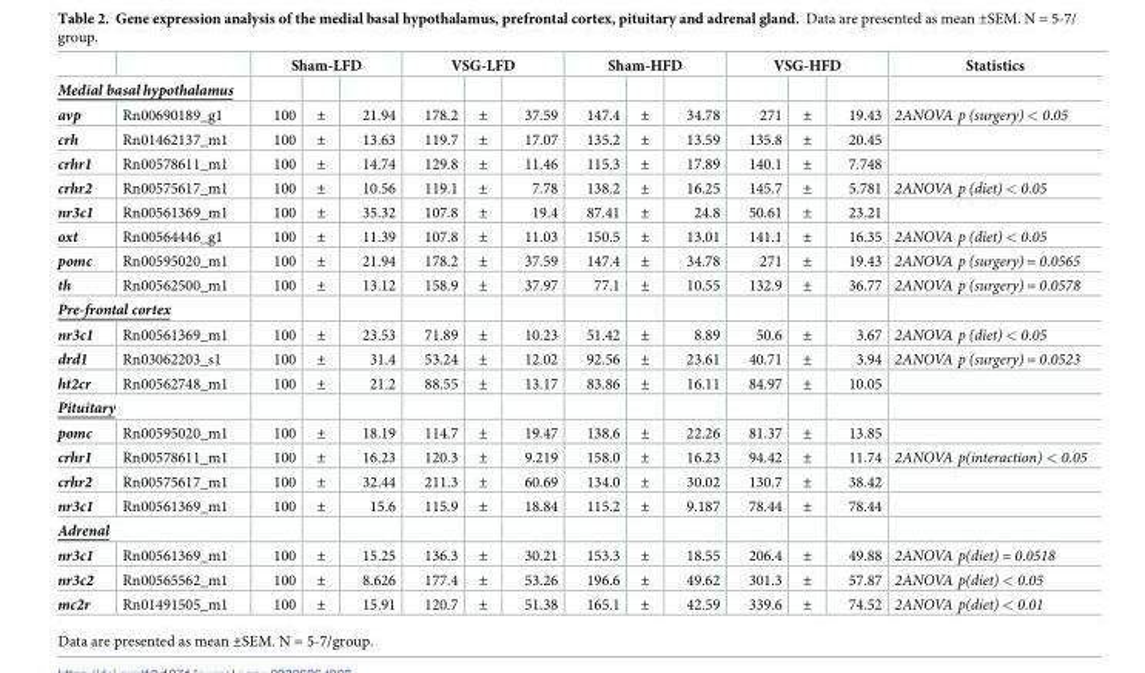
<table><thead><tr><td></td><td></td><td colspan="3">Sham-LFD</td><td colspan="3">VSG-LFD</td><td colspan="3">Sham-HFD</td><td colspan="3">VSG-HFD</td><td rowspan="2">Statistics</td></tr><tr><td colspan="2">Medial basal hypothalamus</td><td></td><td></td><td></td><td></td><td></td><td></td><td></td><td></td><td></td><td></td><td></td><td></td></tr></thead><tbody><tr><td>avp</td><td>Rn00690189_g1</td><td>100</td><td>±</td><td>21.94</td><td>178.2</td><td>±</td><td>37.59</td><td>147.4</td><td>±</td><td>34.78</td><td>271</td><td>±</td><td>19.43</td><td>2ANOVA p (surgery) &lt; 0.05</td></tr><tr><td>crh</td><td>Rn01462137_m1</td><td>100</td><td>±</td><td>13.63</td><td>119.7</td><td>±</td><td>17.07</td><td>135.2</td><td>±</td><td>13.59</td><td>135.8</td><td>±</td><td>20.45</td><td></td></tr><tr><td>crhr1</td><td>Rn00578611_m1</td><td>100</td><td>±</td><td>14.74</td><td>129.8</td><td>±</td><td>11.46</td><td>115.3</td><td>±</td><td>17.89</td><td>140.1</td><td>±</td><td>7.748</td><td></td></tr><tr><td>crhr2</td><td>Rn00575617_m1</td><td>100</td><td>±</td><td>10.56</td><td>119.1</td><td>±</td><td>7.78</td><td>138.2</td><td>±</td><td>16.25</td><td>145.7</td><td>±</td><td>5.781</td><td>2ANOVA p (diet) &lt; 0.05</td></tr><tr><td>nr3c1</td><td>Rn00561369_m1</td><td>100</td><td>±</td><td>35.32</td><td>107.8</td><td>±</td><td>19.4</td><td>87.41</td><td>±</td><td>24.8</td><td>50.61</td><td>±</td><td>23.21</td><td></td></tr><tr><td>oxt</td><td>Rn00564446_g1</td><td>100</td><td>±</td><td>11.39</td><td>107.8</td><td>±</td><td>11.03</td><td>150.5</td><td>±</td><td>13.01</td><td>141.1</td><td>±</td><td>16.35</td><td>2ANOVA p (diet) &lt; 0.05</td></tr><tr><td>pomc</td><td>Rn00595020_m1</td><td>100</td><td>±</td><td>21.94</td><td>178.2</td><td>±</td><td>37.59</td><td>147.4</td><td>±</td><td>34.78</td><td>271</td><td>±</td><td>19.43</td><td>2ANOVA p (surgery) = 0.0565</td></tr><tr><td>th</td><td>Rn00562500_m1</td><td>100</td><td>±</td><td>13.12</td><td>158.9</td><td>±</td><td>37.97</td><td>77.1</td><td>±</td><td>10.55</td><td>132.9</td><td>±</td><td>36.77</td><td>2ANOVA p (surgery) = 0.0578</td></tr><tr><td colspan="15">Pre-frontal cortex</td></tr><tr><td>nr3c1</td><td>Rn00561369_m1</td><td>100</td><td>±</td><td>23.53</td><td>71.89</td><td>±</td><td>10.23</td><td>51.42</td><td>±</td><td>8.89</td><td>50.6</td><td>±</td><td>3.67</td><td>2ANOVA p (diet) &lt; 0.05</td></tr><tr><td>drd1</td><td>Rn03062203_s1</td><td>100</td><td>±</td><td>31.4</td><td>53.24</td><td>±</td><td>12.02</td><td>92.56</td><td>±</td><td>23.61</td><td>40.71</td><td>±</td><td>3.94</td><td>2ANOVA p (surgery) = 0.0523</td></tr><tr><td>ht2cr</td><td>Rn00562748_m1</td><td>100</td><td>±</td><td>21.2</td><td>88.55</td><td>±</td><td>13.17</td><td>83.86</td><td>±</td><td>16.11</td><td>84.97</td><td>±</td><td>10.05</td><td></td></tr><tr><td colspan="15">Pituitary</td></tr><tr><td>pomc</td><td>Rn00595020_m1</td><td>100</td><td>±</td><td>18.19</td><td>114.7</td><td>±</td><td>19.47</td><td>138.6</td><td>±</td><td>22.26</td><td>81.37</td><td>±</td><td>13.85</td><td></td></tr><tr><td>crhr1</td><td>Rn00578611_m1</td><td>100</td><td>±</td><td>16.23</td><td>120.3</td><td>±</td><td>9.219</td><td>158.0</td><td>±</td><td>16.23</td><td>94.42</td><td>±</td><td>11.74</td><td>2ANOVA p(interaction) &lt; 0.05</td></tr><tr><td>crhr2</td><td>Rn00575617_m1</td><td>100</td><td>±</td><td>32.44</td><td>211.3</td><td>±</td><td>60.69</td><td>134.0</td><td>±</td><td>30.02</td><td>130.7</td><td>±</td><td>38.42</td><td></td></tr><tr><td>nr3c1</td><td>Rn00561369_m1</td><td>100</td><td>±</td><td>15.6</td><td>115.9</td><td>±</td><td>18.84</td><td>115.2</td><td>±</td><td>9.187</td><td>78.44</td><td>±</td><td>78.44</td><td></td></tr><tr><td colspan="15">Adrenal</td></tr><tr><td>nr3c1</td><td>Rn00561369_m1</td><td>100</td><td>±</td><td>15.25</td><td>136.3</td><td>±</td><td>30.21</td><td>153.3</td><td>±</td><td>18.55</td><td>206.4</td><td>±</td><td>49.88</td><td>2ANOVA p(diet) = 0.0518</td></tr><tr><td>nr3c2</td><td>Rn00565562_m1</td><td>100</td><td>±</td><td>8.626</td><td>177.4</td><td>±</td><td>53.26</td><td>196.6</td><td>±</td><td>49.62</td><td>301.3</td><td>±</td><td>57.87</td><td>2ANOVA p(diet) &lt; 0.05</td></tr><tr><td>mc2r</td><td>Rn01491505_m1</td><td>100</td><td>±</td><td>15.91</td><td>120.7</td><td>±</td><td>51.38</td><td>165.1</td><td>±</td><td>42.59</td><td>339.6</td><td>±</td><td>74.52</td><td>2ANOVA p(diet) &lt; 0.01</td></tr></tbody></table>